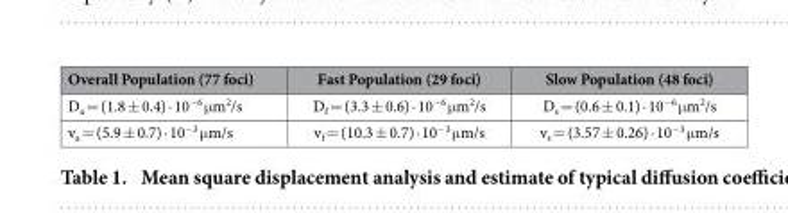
<table><thead><tr><td>Overall Population (77 foci)</td><td>Fast Population (29 foci)</td><td>Slow Population (48 foci)</td></tr></thead><tbody><tr><td>D<sub>a</sub> = (1.8 ± 0.4) · 10<sup>−6</sup> μ m<sup>2</sup>/s</td><td>D<sub>f</sub> = (3.3 ± 0.6) · 10<sup>−6</sup> μ m<sup>2</sup>/s</td><td>D<sub>s</sub> = (0.6 ± 0.1) · 10<sup>−6</sup> μ m<sup>2</sup>/s</td></tr><tr><td>v<sub>a</sub> = (5.9 ± 0.7) · 10<sup>−3</sup> μ m/s</td><td>v<sub>f</sub> = (10.3 ± 0.7) · 10<sup>−3</sup> μ m/s</td><td>v<sub>s</sub> = (3.57 ± 0.26) · 10<sup>−3</sup> μ m/s</td></tr></tbody></table>